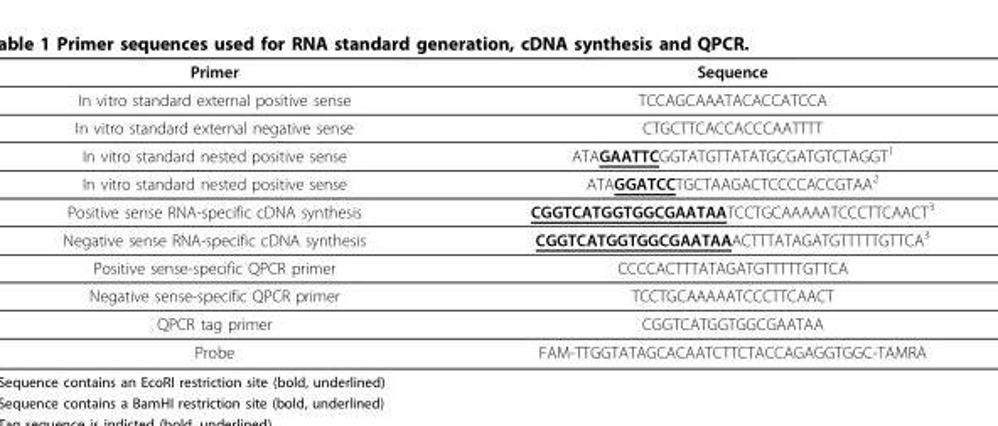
<table><thead><tr><td>Primer</td><td>Sequence</td></tr></thead><tbody><tr><td>In vitro standard external positive sense</td><td>TCCAGCAAATACACCATCCA</td></tr><tr><td>In vitro standard external negative sense</td><td>CTGCTTCACCACCCAATTTT</td></tr><tr><td>In vitro standard nested positive sense</td><td>ATAGAATTCGGTATGTTATATGCGATGTCTAGGT<sup>1</sup></td></tr><tr><td>In vitro standard nested positive sense</td><td>ATAGGATCCTGCTAAGACTCCCCACCGTAA<sup>2</sup></td></tr><tr><td>Positive sense RNA-specific cDNA synthesis</td><td>CGGTCATGGTGGCGAATAATCCTGCAAAAATCCCTTCAACT<sup>3</sup></td></tr><tr><td>Negative sense RNA-specific cDNA synthesis</td><td>CGGTCATGGTGGCGAATAAACTTTATAGATGTTTTTGTTCA<sup>3</sup></td></tr><tr><td>Positive sense-specific QPCR primer</td><td>CCCCACTTTATAGATGTTTTTGTTCA</td></tr><tr><td>Negative sense-specific QPCR primer</td><td>TCCTGCAAAAATCCCTTCAACT</td></tr><tr><td>QPCR tag primer</td><td>CGGTCATGGTGGCGAATAA</td></tr><tr><td>Probe</td><td>FAM-TTGGTATAGCACAATCTTCTACCAGAGGTGGC-TAMRA</td></tr></tbody></table>